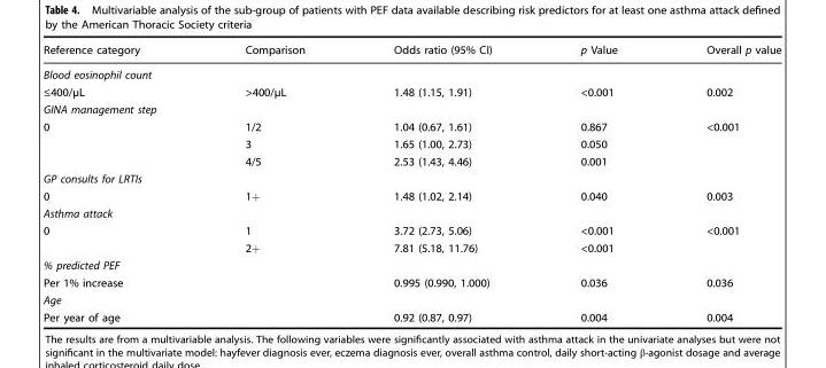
<table><thead><tr><td>Reference category</td><td>Comparison</td><td>Odds ratio (95% CI)</td><td>p Value</td><td>Overall p value</td></tr></thead><tbody><tr><td colspan="5">Blood eosinophil count</td></tr><tr><td>≤400/µL</td><td>&gt;400/µL</td><td>1.48 (1.15, 1.91)</td><td>&lt;0.001</td><td>0.002</td></tr><tr><td colspan="5">GINA management step</td></tr><tr><td rowspan="3">0</td><td>1/2</td><td>1.04 (0.67, 1.61)</td><td>0.867</td><td rowspan="3">&lt;0.001</td></tr><tr><td>3</td><td>1.65 (1.00, 2.73)</td><td>0.050</td></tr><tr><td>4/5</td><td>2.53 (1.43, 4.46)</td><td>0.001</td></tr><tr><td colspan="5">GP consults for LRTIs</td></tr><tr><td>0</td><td>1+</td><td>1.48 (1.02, 2.14)</td><td>0.040</td><td>0.003</td></tr><tr><td colspan="5">Asthma attack</td></tr><tr><td rowspan="2">0</td><td>1</td><td>3.72 (2.73, 5.06)</td><td>&lt;0.001</td><td rowspan="2">&lt;0.001</td></tr><tr><td>2+</td><td>7.81 (5.18, 11.76)</td><td>&lt;0.001</td></tr><tr><td colspan="5">% predicted PEF</td></tr><tr><td colspan="2">Per 1% increase</td><td>0.995 (0.990, 1.000)</td><td>0.036</td><td>0.036</td></tr><tr><td colspan="5">Age</td></tr><tr><td colspan="2">Per year of age</td><td>0.92 (0.87, 0.97)</td><td>0.004</td><td>0.004</td></tr></tbody></table>